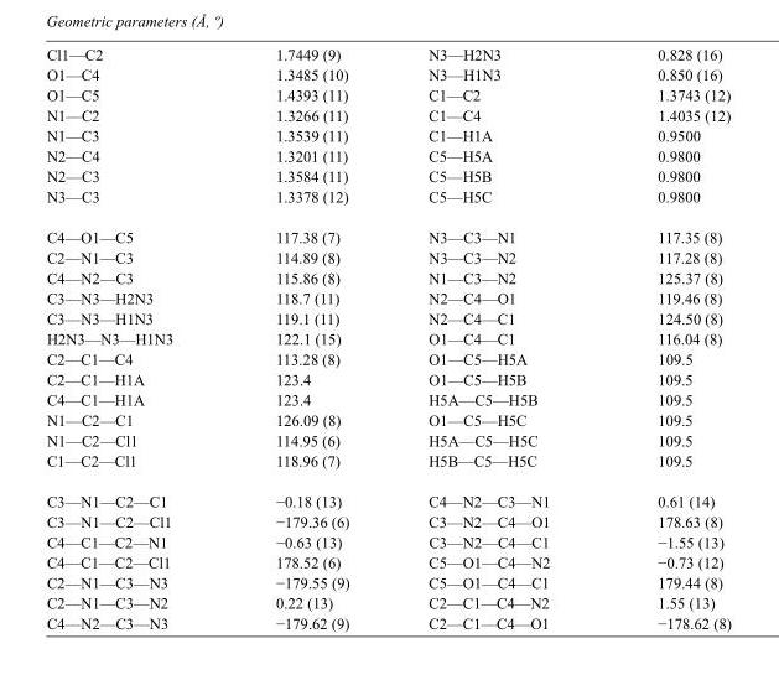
<table><tbody><tr><td>Cl1—C2</td><td>1.7449 (9)</td><td>N3—H2N3</td><td>0.828 (16)</td></tr><tr><td>O1—C4</td><td>1.3485 (10)</td><td>N3—H1N3</td><td>0.850 (16)</td></tr><tr><td>O1—C5</td><td>1.4393 (11)</td><td>C1—C2</td><td>1.3743 (12)</td></tr><tr><td>N1—C2</td><td>1.3266 (11)</td><td>C1—C4</td><td>1.4035 (12)</td></tr><tr><td>N1—C3</td><td>1.3539 (11)</td><td>C1—H1A</td><td>0.9500</td></tr><tr><td>N2—C4</td><td>1.3201 (11)</td><td>C5—H5A</td><td>0.9800</td></tr><tr><td>N2—C3</td><td>1.3584 (11)</td><td>C5—H5B</td><td>0.9800</td></tr><tr><td>N3—C3</td><td>1.3378 (12)</td><td>C5—H5C</td><td>0.9800</td></tr><tr><td>C4—O1—C5</td><td>117.38 (7)</td><td>N3—C3—N1</td><td>117.35 (8)</td></tr><tr><td>C2—N1—C3</td><td>114.89 (8)</td><td>N3—C3—N2</td><td>117.28 (8)</td></tr><tr><td>C4—N2—C3</td><td>115.86 (8)</td><td>N1—C3—N2</td><td>125.37 (8)</td></tr><tr><td>C3—N3—H2N3</td><td>118.7 (11)</td><td>N2—C4—O1</td><td>119.46 (8)</td></tr><tr><td>C3—N3—H1N3</td><td>119.1 (11)</td><td>N2—C4—C1</td><td>124.50 (8)</td></tr><tr><td>H2N3—N3—H1N3</td><td>122.1 (15)</td><td>O1—C4—C1</td><td>116.04 (8)</td></tr><tr><td>C2—C1—C4</td><td>113.28 (8)</td><td>O1—C5—H5A</td><td>109.5</td></tr><tr><td>C2—C1—H1A</td><td>123.4</td><td>O1—C5—H5B</td><td>109.5</td></tr><tr><td>C4—C1—H1A</td><td>123.4</td><td>H5A—C5—H5B</td><td>109.5</td></tr><tr><td>N1—C2—C1</td><td>126.09 (8)</td><td>O1—C5—H5C</td><td>109.5</td></tr><tr><td>N1—C2—Cl1</td><td>114.95 (6)</td><td>H5A—C5—H5C</td><td>109.5</td></tr><tr><td>C1—C2—Cl1</td><td>118.96 (7)</td><td>H5B—C5—H5C</td><td>109.5</td></tr><tr><td>C3—N1—C2—C1</td><td>−0.18 (13)</td><td>C4—N2—C3—N1</td><td>0.61 (14)</td></tr><tr><td>C3—N1—C2—Cl1</td><td>−179.36 (6)</td><td>C3—N2—C4—O1</td><td>178.63 (8)</td></tr><tr><td>C4—C1—C2—N1</td><td>−0.63 (13)</td><td>C3—N2—C4—C1</td><td>−1.55 (13)</td></tr><tr><td>C4—C1—C2—Cl1</td><td>178.52 (6)</td><td>C5—O1—C4—N2</td><td>−0.73 (12)</td></tr><tr><td>C2—N1—C3—N3</td><td>−179.55 (9)</td><td>C5—O1—C4—C1</td><td>179.44 (8)</td></tr><tr><td>C2—N1—C3—N2</td><td>0.22 (13)</td><td>C2—C1—C4—N2</td><td>1.55 (13)</td></tr><tr><td>C4—N2—C3—N3</td><td>−179.62 (9)</td><td>C2—C1—C4—O1</td><td>−178.62 (8)</td></tr></tbody></table>